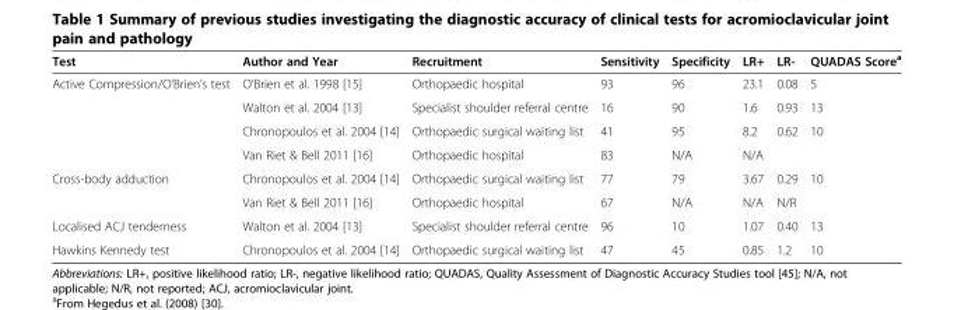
<table><thead><tr><td>Test</td><td>Author and Year</td><td>Recruitment</td><td>Sensitivity</td><td>Specificity</td><td>LR+</td><td>LR-</td><td>QUADAS Score<sup>a</sup></td></tr></thead><tbody><tr><td rowspan="4">Active Compression/O’Brien’s test</td><td>O’Brien et al. 1998 [15]</td><td>Orthopaedic hospital</td><td>93</td><td>96</td><td>23.1</td><td>0.08</td><td>5</td></tr><tr><td>Walton et al. 2004 [13]</td><td>Specialist shoulder referral centre</td><td>16</td><td>90</td><td>1.6</td><td>0.93</td><td>13</td></tr><tr><td>Chronopoulos et al. 2004 [14]</td><td>Orthopaedic surgical waiting list</td><td>41</td><td>95</td><td>8.2</td><td>0.62</td><td>10</td></tr><tr><td>Van Riet &amp; Bell 2011 [16]</td><td>Orthopaedic hospital</td><td>83</td><td>N/A</td><td>N/A</td><td></td><td></td></tr><tr><td rowspan="2">Cross-body adduction</td><td>Chronopoulos et al. 2004 [14]</td><td>Orthopaedic surgical waiting list</td><td>77</td><td>79</td><td>3.67</td><td>0.29</td><td>10</td></tr><tr><td>Van Riet &amp; Bell 2011 [16]</td><td>Orthopaedic hospital</td><td>67</td><td>N/A</td><td>N/A</td><td>N/R</td><td></td></tr><tr><td>Localised ACJ tenderness</td><td>Walton et al. 2004 [13]</td><td>Specialist shoulder referral centre</td><td>96</td><td>10</td><td>1.07</td><td>0.40</td><td>13</td></tr><tr><td>Hawkins Kennedy test</td><td>Chronopoulos et al. 2004 [14]</td><td>Orthopaedic surgical waiting list</td><td>47</td><td>45</td><td>0.85</td><td>1.2</td><td>10</td></tr></tbody></table>